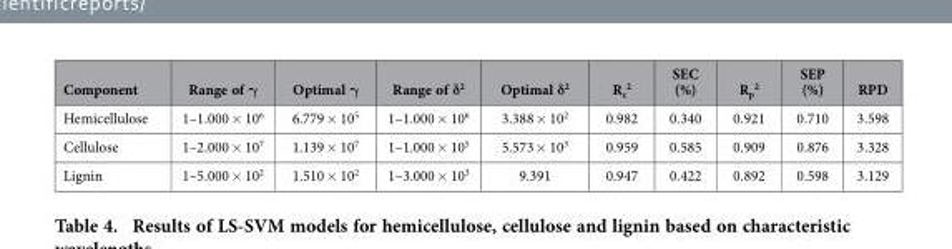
<table><thead><tr><td>Component</td><td>Range of γ</td><td>Optimal γ</td><td>Range of δ<sup>2</sup></td><td>Optimal δ<sup>2</sup></td><td>R<sub>c</sub> <sup>2</sup></td><td>SEC (%)</td><td>R<sub>p</sub> <sup>2</sup></td><td>SEP (%)</td><td>RPD</td></tr></thead><tbody><tr><td>Hemicellulose</td><td>1–1.000 × 10<sup>6</sup></td><td>6.779 × 10<sup>5</sup></td><td>1–1.000 × 10<sup>6</sup></td><td>3.388 × 10<sup>2</sup></td><td>0.982</td><td>0.340</td><td>0.921</td><td>0.710</td><td>3.598</td></tr><tr><td>Cellulose</td><td>1–2.000 × 10<sup>7</sup></td><td>1.139 × 10<sup>7</sup></td><td>1–1.000 × 10<sup>5</sup></td><td>5.573 × 10<sup>3</sup></td><td>0.959</td><td>0.585</td><td>0.909</td><td>0.876</td><td>3.328</td></tr><tr><td>Lignin</td><td>1–5.000 × 10<sup>2</sup></td><td>1.510 × 10<sup>2</sup></td><td>1–3.000 × 10<sup>3</sup></td><td>9.391</td><td>0.947</td><td>0.422</td><td>0.892</td><td>0.598</td><td>3.129</td></tr></tbody></table>